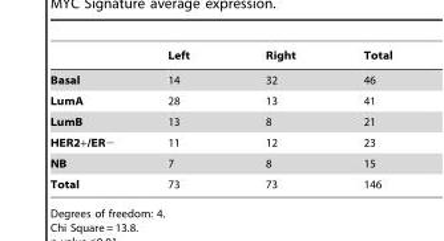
<table><thead><tr><td></td><td>Left</td><td>Right</td><td>Total</td></tr></thead><tbody><tr><td>Basal</td><td>14</td><td>32</td><td>46</td></tr><tr><td>LumA</td><td>28</td><td>13</td><td>41</td></tr><tr><td>LumB</td><td>13</td><td>8</td><td>21</td></tr><tr><td>HER2+/ER−</td><td>11</td><td>12</td><td>23</td></tr><tr><td>NB</td><td>7</td><td>8</td><td>15</td></tr><tr><td>Total</td><td>73</td><td>73</td><td>146</td></tr></tbody></table>